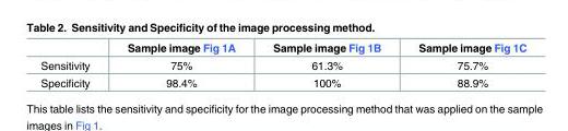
<table><thead><tr><td></td><td>Sample image Fig 1A</td><td>Sample image Fig 1B</td><td>Sample image Fig 1C</td></tr></thead><tbody><tr><td>Sensitivity</td><td>75%</td><td>61.3%</td><td>75.7%</td></tr><tr><td>Specificity</td><td>98.4%</td><td>100%</td><td>88.9%</td></tr></tbody></table>